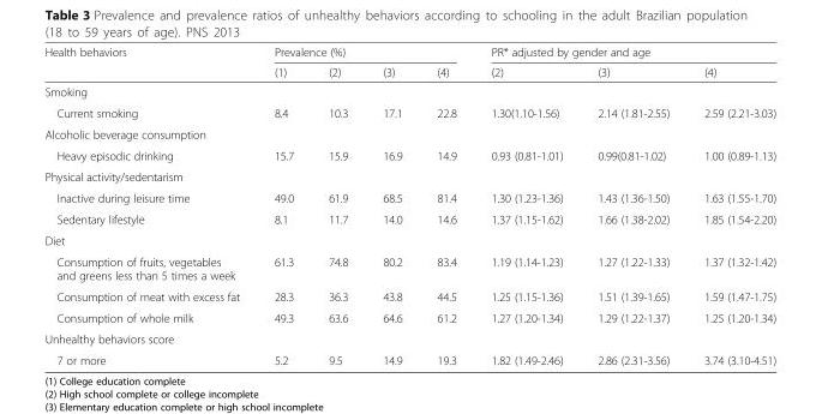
<table><thead><tr><td rowspan="2">Health behaviors</td><td colspan="4">Prevalence (%)</td><td colspan="3">PR* adjusted by gender and age</td></tr><tr><td>(1)</td><td>(2)</td><td>(3)</td><td>(4)</td><td>(2)</td><td>(3)</td><td>(4)</td></tr></thead><tbody><tr><td colspan="8">Smoking</td></tr><tr><td>Current smoking</td><td>8.4</td><td>10.3</td><td>17.1</td><td>22.8</td><td>1.30(1.10-1.56)</td><td>2.14 (1.81-2.55)</td><td>2.59 (2.21-3.03)</td></tr><tr><td colspan="8">Alcoholic beverage consumption</td></tr><tr><td>Heavy episodic drinking</td><td>15.7</td><td>15.9</td><td>16.9</td><td>14.9</td><td>0.93 (0.81-1.01)</td><td>0.99(0.81-1.02)</td><td>1.00 (0.89-1.13)</td></tr><tr><td colspan="8">Physical activity/sedentarism</td></tr><tr><td>Inactive during leisure time</td><td>49.0</td><td>61.9</td><td>68.5</td><td>81.4</td><td>1.30 (1.23-1.36)</td><td>1.43 (1.36-1.50)</td><td>1.63 (1.55-1.70)</td></tr><tr><td>Sedentary lifestyle</td><td>8.1</td><td>11.7</td><td>14.0</td><td>14.6</td><td>1.37 (1.15-1.62)</td><td>1.66 (1.38-2.02)</td><td>1.85 (1.54-2.20)</td></tr><tr><td colspan="8">Diet</td></tr><tr><td>Consumption of fruits, vegetables and greens less than 5 times a week</td><td>61.3</td><td>74.8</td><td>80.2</td><td>83.4</td><td>1.19 (1.14-1.23)</td><td>1.27 (1.22-1.33)</td><td>1.37 (1.32-1.42)</td></tr><tr><td>Consumption of meat with excess fat</td><td>28.3</td><td>36.3</td><td>43.8</td><td>44.5</td><td>1.25 (1.15-1.36)</td><td>1.51 (1.39-1.65)</td><td>1.59 (1.47-1.75)</td></tr><tr><td>Consumption of whole milk</td><td>49.3</td><td>63.6</td><td>64.6</td><td>61.2</td><td>1.27 (1.20-1.34)</td><td>1.29 (1.22-1.37)</td><td>1.25 (1.20-1.34)</td></tr><tr><td colspan="8">Unhealthy behaviors score</td></tr><tr><td>7 or more</td><td>5.2</td><td>9.5</td><td>14.9</td><td>19.3</td><td>1.82 (1.49-2.46)</td><td>2.86 (2.31-3.56)</td><td>3.74 (3.10-4.51)</td></tr></tbody></table>